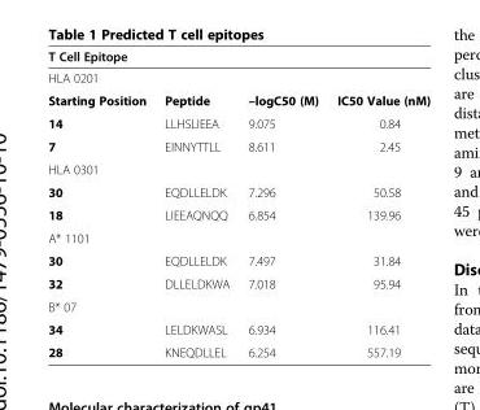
<table><thead><tr><td rowspan="2" colspan="4">T Cell Epitope HLA 0201</td></tr><tr></tr><tr><td>Starting Position</td><td>Peptide</td><td>–logC50 (M)</td><td>IC50 Value (nM)</td></tr></thead><tbody><tr><td>14</td><td>LLHSLIEEA</td><td>9.075</td><td>0.84</td></tr><tr><td>7</td><td>EINNYTTLL</td><td>8.611</td><td>2.45</td></tr><tr><td colspan="4">HLA 0301</td></tr><tr><td>30</td><td>EQDLLELDK</td><td>7.296</td><td>50.58</td></tr><tr><td>18</td><td>LIEEAQNQQ</td><td>6.854</td><td>139.96</td></tr><tr><td colspan="4">A* 1101</td></tr><tr><td>30</td><td>EQDLLELDK</td><td>7.497</td><td>31.84</td></tr><tr><td>32</td><td>DLLELDKWA</td><td>7.018</td><td>95.94</td></tr><tr><td colspan="4">B* 07</td></tr><tr><td>34</td><td>LELDKWASL</td><td>6.934</td><td>116.41</td></tr><tr><td>28</td><td>KNEQDLLEL</td><td>6.254</td><td>557.19</td></tr></tbody></table>